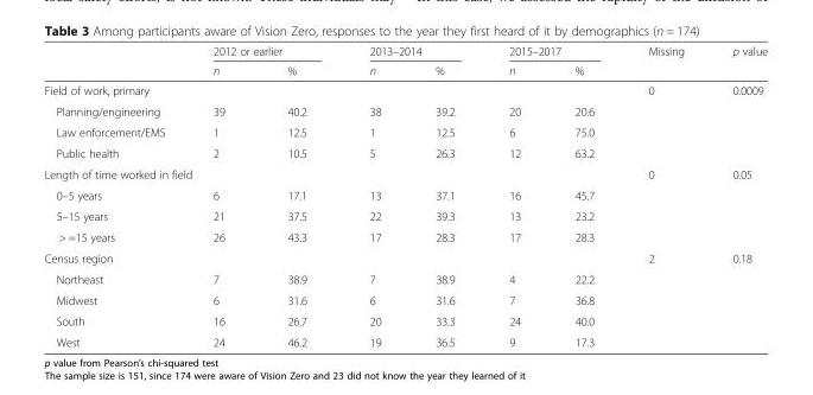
<table><thead><tr><td rowspan="2"></td><td colspan="2">2012 or earlier</td><td colspan="2">2013–2014</td><td colspan="2">2015–2017</td><td rowspan="2">Missing</td><td rowspan="2">p value</td></tr><tr><td>n</td><td>%</td><td>n</td><td>%</td><td>n</td><td>%</td></tr></thead><tbody><tr><td colspan="7">Field of work, primary</td><td>0</td><td>0.0009</td></tr><tr><td>Planning/engineering</td><td>39</td><td>40.2</td><td>38</td><td>39.2</td><td>20</td><td>20.6</td><td rowspan="3" colspan="2"></td></tr><tr><td>Law enforcement/EMS</td><td>1</td><td>12.5</td><td>1</td><td>12.5</td><td>6</td><td>75.0</td></tr><tr><td>Public health</td><td>2</td><td>10.5</td><td>5</td><td>26.3</td><td>12</td><td>63.2</td></tr><tr><td colspan="7">Length of time worked in field</td><td>0</td><td>0.05</td></tr><tr><td>0–5 years</td><td>6</td><td>17.1</td><td>13</td><td>37.1</td><td>16</td><td>45.7</td><td rowspan="3" colspan="2"></td></tr><tr><td>5–15 years</td><td>21</td><td>37.5</td><td>22</td><td>39.3</td><td>13</td><td>23.2</td></tr><tr><td>&gt; =15 years</td><td>26</td><td>43.3</td><td>17</td><td>28.3</td><td>17</td><td>28.3</td></tr><tr><td colspan="7">Census region</td><td>2</td><td>0.18</td></tr><tr><td>Northeast</td><td>7</td><td>38.9</td><td>7</td><td>38.9</td><td>4</td><td>22.2</td><td rowspan="4" colspan="2"></td></tr><tr><td>Midwest</td><td>6</td><td>31.6</td><td>6</td><td>31.6</td><td>7</td><td>36.8</td></tr><tr><td>South</td><td>16</td><td>26.7</td><td>20</td><td>33.3</td><td>24</td><td>40.0</td></tr><tr><td>West</td><td>24</td><td>46.2</td><td>19</td><td>36.5</td><td>9</td><td>17.3</td></tr></tbody></table>